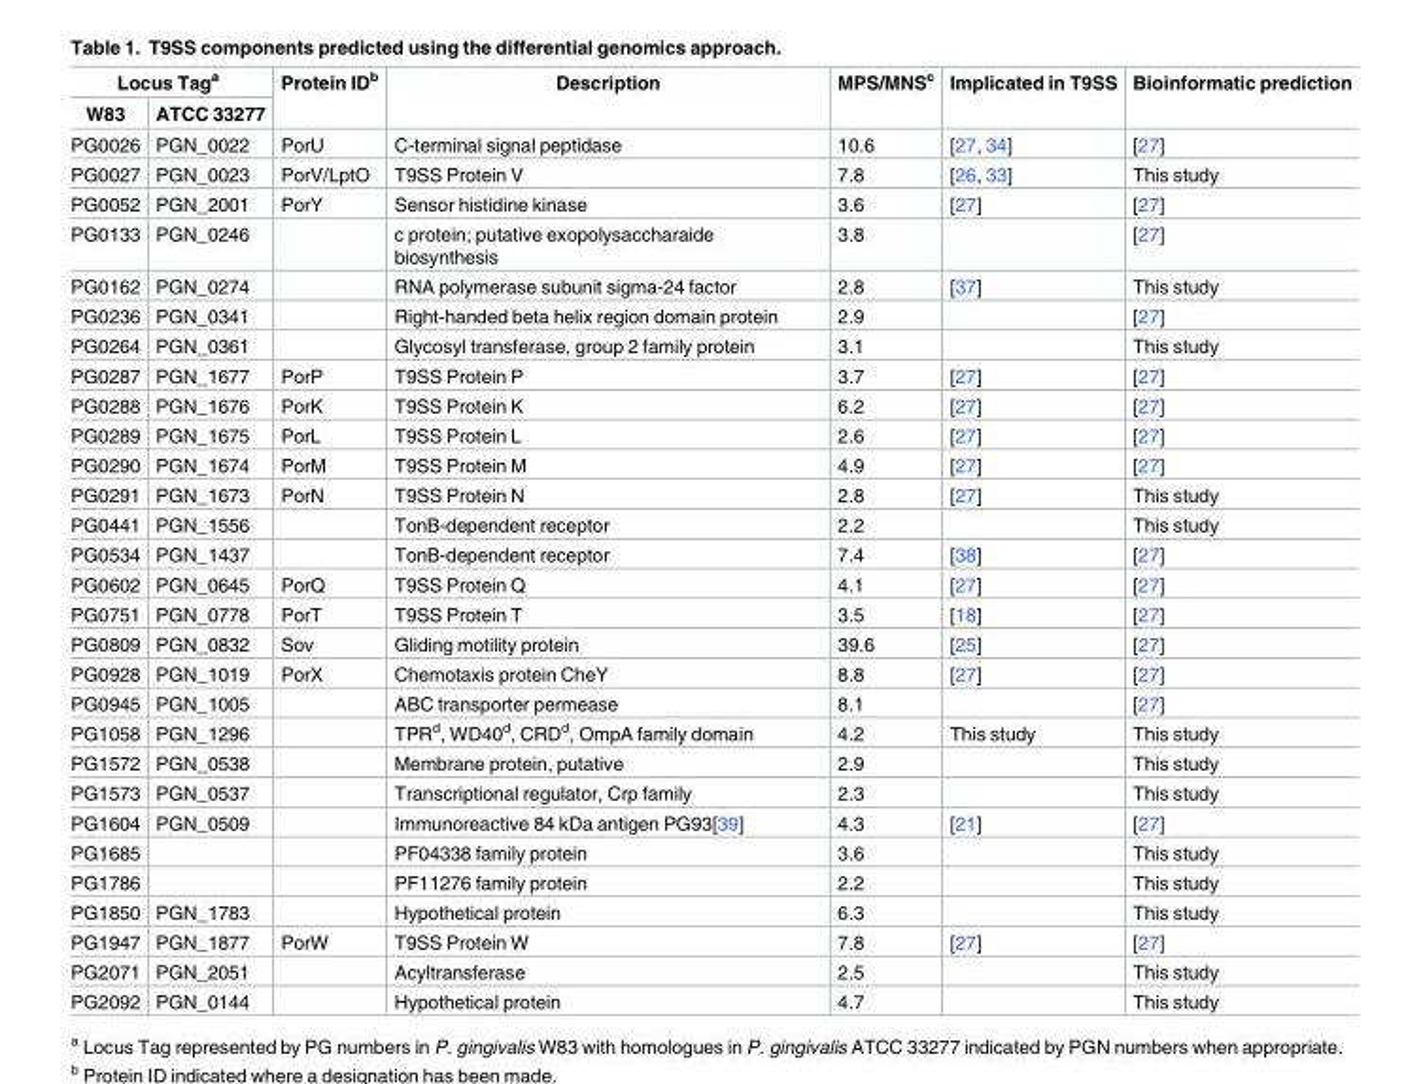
<table><thead><tr><td colspan="2">Locus Tag<sup>a</sup></td><td rowspan="2">Protein ID<sup>b</sup></td><td rowspan="2">Description</td><td rowspan="2">MPS/MNS<sup>c</sup></td><td rowspan="2">Implicated in T9SS</td><td rowspan="2">Bioinformatic prediction</td></tr><tr><td>W83</td><td>ATCC 33277</td></tr></thead><tbody><tr><td>PG0026</td><td>PGN_0022</td><td>PorU</td><td>C-terminal signal peptidase</td><td>10.6</td><td>[27, 34]</td><td>[27]</td></tr><tr><td>PG0027</td><td>PGN_0023</td><td>PorV/LptO</td><td>T9SS Protein V</td><td>7.8</td><td>[26, 33]</td><td>This study</td></tr><tr><td>PG0052</td><td>PGN_2001</td><td>PorY</td><td>Sensor histidine kinase</td><td>3.6</td><td>[27]</td><td>[27]</td></tr><tr><td>PG0133</td><td>PGN_0246</td><td></td><td>c protein; putative exopolysaccharaide biosynthesis</td><td>3.8</td><td></td><td>[27]</td></tr><tr><td>PG0162</td><td>PGN_0274</td><td></td><td>RNA polymerase subunit sigma-24 factor</td><td>2.8</td><td>[37]</td><td>This study</td></tr><tr><td>PG0236</td><td>PGN_0341</td><td></td><td>Right-handed beta helix region domain protein</td><td>2.9</td><td></td><td>[27]</td></tr><tr><td>PG0264</td><td>PGN_0361</td><td></td><td>Glycosyl transferase, group 2 family protein</td><td>3.1</td><td></td><td>This study</td></tr><tr><td>PG0287</td><td>PGN_1677</td><td>PorP</td><td>T9SS Protein P</td><td>3.7</td><td>[27]</td><td>[27]</td></tr><tr><td>PG0288</td><td>PGN_1676</td><td>PorK</td><td>T9SS Protein K</td><td>6.2</td><td>[27]</td><td>[27]</td></tr><tr><td>PG0289</td><td>PGN_1675</td><td>PorL</td><td>T9SS Protein L</td><td>2.6</td><td>[27]</td><td>[27]</td></tr><tr><td>PG0290</td><td>PGN_1674</td><td>PorM</td><td>T9SS Protein M</td><td>4.9</td><td>[27]</td><td>[27]</td></tr><tr><td>PG0291</td><td>PGN_1673</td><td>PorN</td><td>T9SS Protein N</td><td>2.8</td><td>[27]</td><td>This study</td></tr><tr><td>PG0441</td><td>PGN_1556</td><td></td><td>TonB-dependent receptor</td><td>2.2</td><td></td><td>This study</td></tr><tr><td>PG0534</td><td>PGN_1437</td><td></td><td>TonB-dependent receptor</td><td>7.4</td><td>[38]</td><td>[27]</td></tr><tr><td>PG0602</td><td>PGN_0645</td><td>PorQ</td><td>T9SS Protein Q</td><td>4.1</td><td>[27]</td><td>[27]</td></tr><tr><td>PG0751</td><td>PGN_0778</td><td>PorT</td><td>T9SS Protein T</td><td>3.5</td><td>[18]</td><td>[27]</td></tr><tr><td>PG0809</td><td>PGN_0832</td><td>Sov</td><td>Gliding motility protein</td><td>39.6</td><td>[25]</td><td>[27]</td></tr><tr><td>PG0928</td><td>PGN_1019</td><td>PorX</td><td>Chemotaxis protein CheY</td><td>8.8</td><td>[27]</td><td>[27]</td></tr><tr><td>PG0945</td><td>PGN_1005</td><td></td><td>ABC transporter permease</td><td>8.1</td><td></td><td>[27]</td></tr><tr><td>PG1058</td><td>PGN_1296</td><td></td><td>TPR<sup>d</sup>, WD40<sup>d</sup>, CRD<sup>d</sup>, OmpA family domain</td><td>4.2</td><td>This study</td><td>This study</td></tr><tr><td>PG1572</td><td>PGN_0538</td><td></td><td>Membrane protein, putative</td><td>2.9</td><td></td><td>This study</td></tr><tr><td>PG1573</td><td>PGN_0537</td><td></td><td>Transcriptional regulator, Crp family</td><td>2.3</td><td></td><td>This study</td></tr><tr><td>PG1604</td><td>PGN_0509</td><td></td><td>Immunoreactive 84 kDa antigen PG93[39]</td><td>4.3</td><td>[21]</td><td>[27]</td></tr><tr><td>PG1685</td><td></td><td></td><td>PF04338 family protein</td><td>3.6</td><td></td><td>This study</td></tr><tr><td>PG1786</td><td></td><td></td><td>PF11276 family protein</td><td>2.2</td><td></td><td>This study</td></tr><tr><td>PG1850</td><td>PGN_1783</td><td></td><td>Hypothetical protein</td><td>6.3</td><td></td><td>This study</td></tr><tr><td>PG1947</td><td>PGN_1877</td><td>PorW</td><td>T9SS Protein W</td><td>7.8</td><td>[27]</td><td>[27]</td></tr><tr><td>PG2071</td><td>PGN_2051</td><td></td><td>Acyltransferase</td><td>2.5</td><td></td><td>This study</td></tr><tr><td>PG2092</td><td>PGN_0144</td><td></td><td>Hypothetical protein</td><td>4.7</td><td></td><td>This study</td></tr></tbody></table>